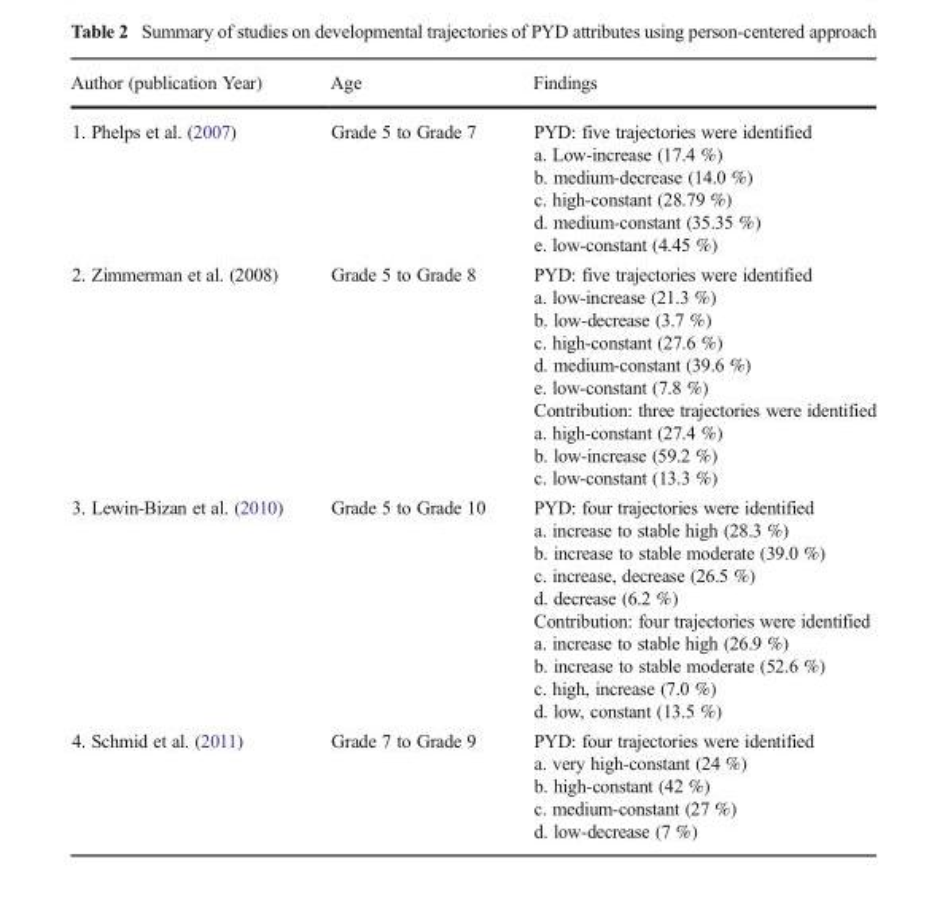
<table><thead><tr><td>Author (publication Year)</td><td>Age</td><td>Findings</td></tr></thead><tbody><tr><td>1. Phelps et al. (2007)</td><td>Grade 5 to Grade 7</td><td>PYD: five trajectories were identified a. Low-increase (17.4 %) b. medium-decrease (14.0 %) c. high-constant (28.79 %) d. medium-constant (35.35 %) e. low-constant (4.45 %)</td></tr><tr><td>2. Zimmerman et al. (2008)</td><td>Grade 5 to Grade 8</td><td>PYD: five trajectories were identified a. low-increase (21.3 %) b. low-decrease (3.7 %) c. high-constant (27.6 %) d. medium-constant (39.6 %) e. low-constant (7.8 %) Contribution: three trajectories were identified a. high-constant (27.4 %) b. low-increase (59.2 %) c. low-constant (13.3 %)</td></tr><tr><td>3. Lewin-Bizan et al. (2010)</td><td>Grade 5 to Grade 10</td><td>PYD: four trajectories were identified a. increase to stable high (28.3 %) b. increase to stable moderate (39.0 %) c. increase, decrease (26.5 %) d. decrease (6.2 %) Contribution: four trajectories were identified a. increase to stable high (26.9 %) b. increase to stable moderate (52.6 %) c. high, increase (7.0 %) d. low, constant (13.5 %)</td></tr><tr><td>4. Schmid et al. (2011)</td><td>Grade 7 to Grade 9</td><td>PYD: four trajectories were identified a. very high-constant (24 %) b. high-constant (42 %) c. medium-constant (27 %) d. low-decrease (7 %)</td></tr></tbody></table>